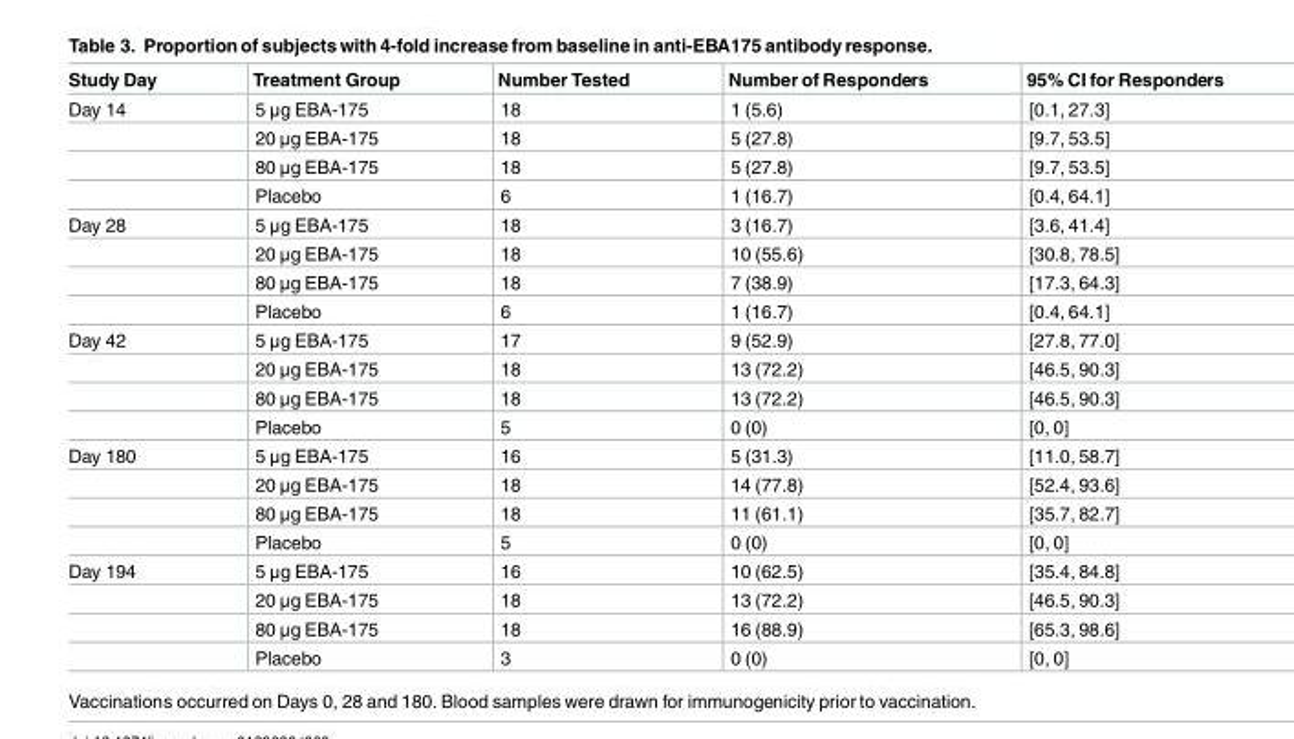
<table><thead><tr><td>Study Day</td><td>Treatment Group</td><td>Number Tested</td><td>Number of Responders</td><td>95% CI for Responders</td></tr></thead><tbody><tr><td rowspan="4">Day 14</td><td>5 μg EBA-175</td><td>18</td><td>1 (5.6)</td><td>[0.1, 27.3]</td></tr><tr><td>20 μg EBA-175</td><td>18</td><td>5 (27.8)</td><td>[9.7, 53.5]</td></tr><tr><td>80 μg EBA-175</td><td>18</td><td>5 (27.8)</td><td>[9.7, 53.5]</td></tr><tr><td>Placebo</td><td>6</td><td>1 (16.7)</td><td>[0.4, 64.1]</td></tr><tr><td rowspan="4">Day 28</td><td>5 μg EBA-175</td><td>18</td><td>3 (16.7)</td><td>[3.6, 41.4]</td></tr><tr><td>20 μg EBA-175</td><td>18</td><td>10 (55.6)</td><td>[30.8, 78.5]</td></tr><tr><td>80 μg EBA-175</td><td>18</td><td>7 (38.9)</td><td>[17.3, 64.3]</td></tr><tr><td>Placebo</td><td>6</td><td>1 (16.7)</td><td>[0.4, 64.1]</td></tr><tr><td rowspan="4">Day 42</td><td>5 μg EBA-175</td><td>17</td><td>9 (52.9)</td><td>[27.8, 77.0]</td></tr><tr><td>20 μg EBA-175</td><td>18</td><td>13 (72.2)</td><td>[46.5, 90.3]</td></tr><tr><td>80 μg EBA-175</td><td>18</td><td>13 (72.2)</td><td>[46.5, 90.3]</td></tr><tr><td>Placebo</td><td>5</td><td>0 (0)</td><td>[0, 0]</td></tr><tr><td rowspan="4">Day 180</td><td>5 μg EBA-175</td><td>16</td><td>5 (31.3)</td><td>[11.0, 58.7]</td></tr><tr><td>20 μg EBA-175</td><td>18</td><td>14 (77.8)</td><td>[52.4, 93.6]</td></tr><tr><td>80 μg EBA-175</td><td>18</td><td>11 (61.1)</td><td>[35.7, 82.7]</td></tr><tr><td>Placebo</td><td>5</td><td>0 (0)</td><td>[0, 0]</td></tr><tr><td rowspan="4">Day 194</td><td>5 μg EBA-175</td><td>16</td><td>10 (62.5)</td><td>[35.4, 84.8]</td></tr><tr><td>20 μg EBA-175</td><td>18</td><td>13 (72.2)</td><td>[46.5, 90.3]</td></tr><tr><td>80 μg EBA-175</td><td>18</td><td>16 (88.9)</td><td>[65.3, 98.6]</td></tr><tr><td>Placebo</td><td>3</td><td>0 (0)</td><td>[0, 0]</td></tr></tbody></table>